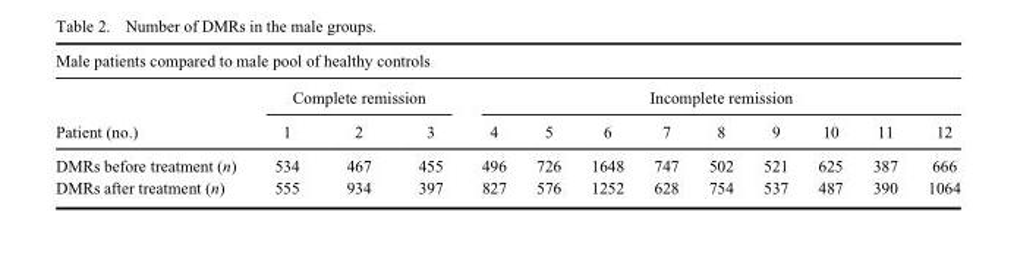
<table><thead><tr><td colspan="13">Male patients compared to male pool of healthy controls</td></tr><tr><td rowspan="2">Patient (no.)</td><td colspan="3">Complete remission</td><td colspan="9">Incomplete remission</td></tr><tr><td>1</td><td>2</td><td>3</td><td>4</td><td>5</td><td>6</td><td>7</td><td>8</td><td>9</td><td>10</td><td>11</td><td>12</td></tr></thead><tbody><tr><td>DMRs before treatment (n)</td><td>534</td><td>467</td><td>455</td><td>496</td><td>726</td><td>1648</td><td>747</td><td>502</td><td>521</td><td>625</td><td>387</td><td>666</td></tr><tr><td>DMRs after treatment (n)</td><td>555</td><td>934</td><td>397</td><td>827</td><td>576</td><td>1252</td><td>628</td><td>754</td><td>537</td><td>487</td><td>390</td><td>1064</td></tr></tbody></table>